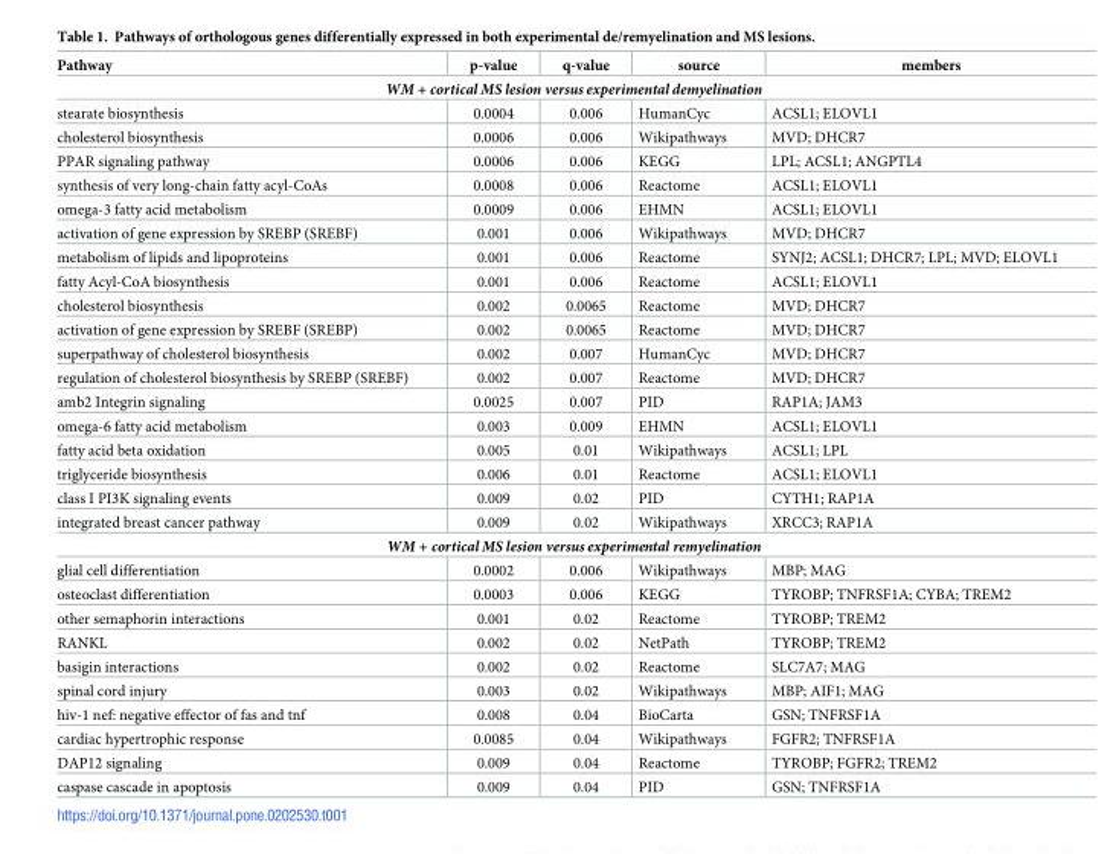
<table><thead><tr><td>Pathway</td><td>p-value</td><td>q-value</td><td>source</td><td>members</td></tr></thead><tbody><tr><td colspan="5">WM + cortical MS lesion versus experimental demyelination</td></tr><tr><td>stearate biosynthesis</td><td>0.0004</td><td>0.006</td><td>HumanCyc</td><td>ACSL1; ELOVL1</td></tr><tr><td>cholesterol biosynthesis</td><td>0.0006</td><td>0.006</td><td>Wikipathways</td><td>MVD; DHCR7</td></tr><tr><td>PPAR signaling pathway</td><td>0.0006</td><td>0.006</td><td>KEGG</td><td>LPL; ACSL1; ANGPTL4</td></tr><tr><td>synthesis of very long-chain fatty acyl-CoAs</td><td>0.0008</td><td>0.006</td><td>Reactome</td><td>ACSL1; ELOVL1</td></tr><tr><td>omega-3 fatty acid metabolism</td><td>0.0009</td><td>0.006</td><td>EHMN</td><td>ACSL1; ELOVL1</td></tr><tr><td>activation of gene expression by SREBP (SREBF)</td><td>0.001</td><td>0.006</td><td>Wikipathways</td><td>MVD; DHCR7</td></tr><tr><td>metabolism of lipids and lipoproteins</td><td>0.001</td><td>0.006</td><td>Reactome</td><td>SYNJ2; ACSL1; DHCR7; LPL; MVD; ELOVL1</td></tr><tr><td>fatty Acyl-CoA biosynthesis</td><td>0.001</td><td>0.006</td><td>Reactome</td><td>ACSL1; ELOVL1</td></tr><tr><td>cholesterol biosynthesis</td><td>0.002</td><td>0.0065</td><td>Reactome</td><td>MVD; DHCR7</td></tr><tr><td>activation of gene expression by SREBF (SREBP)</td><td>0.002</td><td>0.0065</td><td>Reactome</td><td>MVD; DHCR7</td></tr><tr><td>superpathway of cholesterol biosynthesis</td><td>0.002</td><td>0.007</td><td>HumanCyc</td><td>MVD; DHCR7</td></tr><tr><td>regulation of cholesterol biosynthesis by SREBP (SREBF)</td><td>0.002</td><td>0.007</td><td>Reactome</td><td>MVD; DHCR7</td></tr><tr><td>amb2 Integrin signaling</td><td>0.0025</td><td>0.007</td><td>PID</td><td>RAP1A; JAM3</td></tr><tr><td>omega-6 fatty acid metabolism</td><td>0.003</td><td>0.009</td><td>EHMN</td><td>ACSL1; ELOVL1</td></tr><tr><td>fatty acid beta oxidation</td><td>0.005</td><td>0.01</td><td>Wikipathways</td><td>ACSL1; LPL</td></tr><tr><td>triglyceride biosynthesis</td><td>0.006</td><td>0.01</td><td>Reactome</td><td>ACSL1; ELOVL1</td></tr><tr><td>class I PI3K signaling events</td><td>0.009</td><td>0.02</td><td>PID</td><td>CYTH1; RAP1A</td></tr><tr><td>integrated breast cancer pathway</td><td>0.009</td><td>0.02</td><td>Wikipathways</td><td>XRCC3; RAP1A</td></tr><tr><td colspan="5">WM + cortical MS lesion versus experimental remyelination</td></tr><tr><td>glial cell differentiation</td><td>0.0002</td><td>0.006</td><td>Wikipathways</td><td>MBP; MAG</td></tr><tr><td>osteoclast differentiation</td><td>0.0003</td><td>0.006</td><td>KEGG</td><td>TYROBP; TNFRSF1A; CYBA; TREM2</td></tr><tr><td>other semaphorin interactions</td><td>0.001</td><td>0.02</td><td>Reactome</td><td>TYROBP; TREM2</td></tr><tr><td>RANKL</td><td>0.002</td><td>0.02</td><td>NetPath</td><td>TYROBP; TREM2</td></tr><tr><td>basigin interactions</td><td>0.002</td><td>0.02</td><td>Reactome</td><td>SLC7A7; MAG</td></tr><tr><td>spinal cord injury</td><td>0.003</td><td>0.02</td><td>Wikipathways</td><td>MBP; AIF1; MAG</td></tr><tr><td>hiv-1 nef: negative effector of fas and tnf</td><td>0.008</td><td>0.04</td><td>BioCarta</td><td>GSN; TNFRSF1A</td></tr><tr><td>cardiac hypertrophic response</td><td>0.0085</td><td>0.04</td><td>Wikipathways</td><td>FGFR2; TNFRSF1A</td></tr><tr><td>DAP12 signaling</td><td>0.009</td><td>0.04</td><td>Reactome</td><td>TYROBP; FGFR2; TREM2</td></tr><tr><td>caspase cascade in apoptosis</td><td>0.009</td><td>0.04</td><td>PID</td><td>GSN; TNFRSF1A</td></tr></tbody></table>